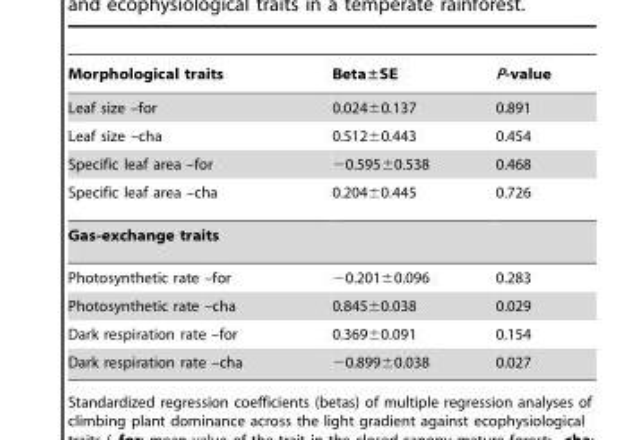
<table><thead><tr><td>Morphological traits</td><td>Beta±SE</td><td>P-value</td></tr></thead><tbody><tr><td>Leaf size –for</td><td>0.024±0.137</td><td>0.891</td></tr><tr><td>Leaf size –cha</td><td>0.512±0.443</td><td>0.454</td></tr><tr><td>Specific leaf area –for</td><td>−0.595±0.538</td><td>0.468</td></tr><tr><td>Specific leaf area –cha</td><td>0.204±0.445</td><td>0.726</td></tr><tr><td colspan="3">Gas-exchange traits</td></tr><tr><td>Photosynthetic rate –for</td><td>−0.201±0.096</td><td>0.283</td></tr><tr><td>Photosynthetic rate –cha</td><td>0.845±0.038</td><td>0.029</td></tr><tr><td>Dark respiration rate –for</td><td>0.369±0.091</td><td>0.154</td></tr><tr><td>Dark respiration rate –cha</td><td>−0.899±0.038</td><td>0.027</td></tr></tbody></table>